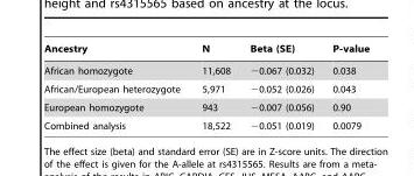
<table><thead><tr><td>Ancestry</td><td>N</td><td>Beta (SE)</td><td>P-value</td></tr></thead><tbody><tr><td>African homozygote</td><td>11,608</td><td>−0.067 (0.032)</td><td>0.038</td></tr><tr><td>African/European heterozygote</td><td>5,971</td><td>−0.052 (0.026)</td><td>0.043</td></tr><tr><td>European homozygote</td><td>943</td><td>−0.007 (0.056)</td><td>0.90</td></tr><tr><td>Combined analysis</td><td>18,522</td><td>−0.051 (0.019)</td><td>0.0079</td></tr></tbody></table>